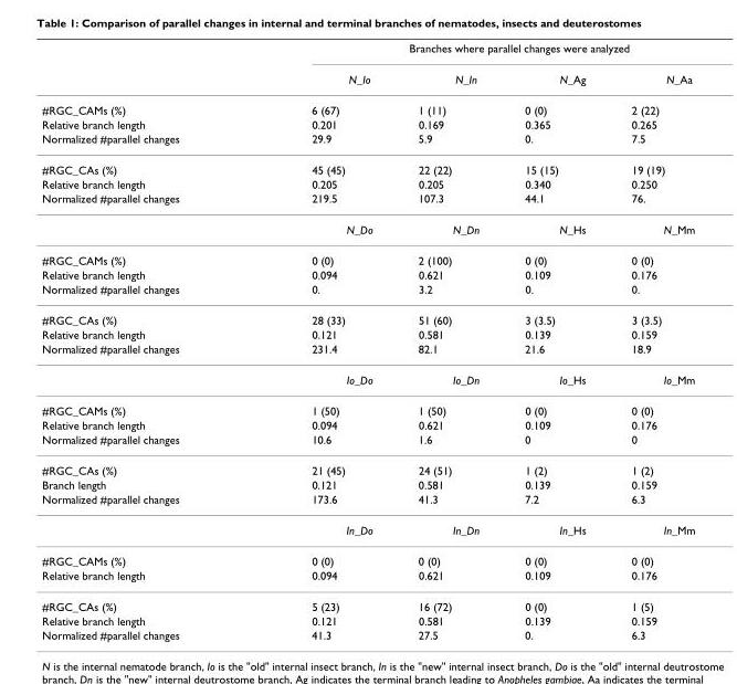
<table><thead><tr><td rowspan="2"></td><td colspan="4">Branches where parallel changes were analyzed</td></tr><tr><td>N_Io</td><td>N_In</td><td>N_Ag</td><td>N_Aa</td></tr></thead><tbody><tr><td>#RGC_CAMs (%)</td><td>6 (67)</td><td>1 (11)</td><td>0 (0)</td><td>2 (22)</td></tr><tr><td>Relative branch length</td><td>0.201</td><td>0.169</td><td>0.365</td><td>0.265</td></tr><tr><td>Normalized #parallel changes</td><td>29.9</td><td>5.9</td><td>0.</td><td>7.5</td></tr><tr><td>#RGC_CAs (%)</td><td>45 (45)</td><td>22 (22)</td><td>15 (15)</td><td>19 (19)</td></tr><tr><td>Relative branch length</td><td>0.205</td><td>0.205</td><td>0.340</td><td>0.250</td></tr><tr><td rowspan="2">Normalized #parallel changes</td><td>219.5</td><td>107.3</td><td>44.1</td><td>76.</td></tr><tr><td>N_Do</td><td>N_Dn</td><td>N_Hs</td><td>N_Mm</td></tr><tr><td>#RGC_CAMs (%)</td><td>0 (0)</td><td>2 (100)</td><td>0 (0)</td><td>0 (0)</td></tr><tr><td>Relative branch length</td><td>0.094</td><td>0.621</td><td>0.109</td><td>0.176</td></tr><tr><td>Normalized #parallel changes</td><td>0.</td><td>3.2</td><td>0.</td><td>0.</td></tr><tr><td>#RGC_CAs (%)</td><td>28 (33)</td><td>51 (60)</td><td>3 (3.5)</td><td>3 (3.5)</td></tr><tr><td>Relative branch length</td><td>0.121</td><td>0.581</td><td>0.139</td><td>0.159</td></tr><tr><td rowspan="2">Normalized #parallel changes</td><td>231.4</td><td>82.1</td><td>21.6</td><td>18.9</td></tr><tr><td>Io_Do</td><td>Io_Dn</td><td>Io_Hs</td><td>Io_Mm</td></tr><tr><td>#RGC_CAMs (%)</td><td>1 (50)</td><td>1 (50)</td><td>0 (0)</td><td>0 (0)</td></tr><tr><td>Relative branch length</td><td>0.094</td><td>0.621</td><td>0.109</td><td>0.176</td></tr><tr><td>Normalized #parallel changes</td><td>10.6</td><td>1.6</td><td>0</td><td>0</td></tr><tr><td>#RGC_CAs (%)</td><td>21 (45)</td><td>24 (51)</td><td>1 (2)</td><td>1 (2)</td></tr><tr><td>Branch length</td><td>0.121</td><td>0.581</td><td>0.139</td><td>0.159</td></tr><tr><td rowspan="2">Normalized #parallel changes</td><td>173.6</td><td>41.3</td><td>7.2</td><td>6.3</td></tr><tr><td>In_Do</td><td>In_Dn</td><td>In_Hs</td><td>In_Mm</td></tr><tr><td>#RGC_CAMs (%)</td><td>0 (0)</td><td>0 (0)</td><td>0 (0)</td><td>0 (0)</td></tr><tr><td>Relative branch length</td><td>0.094</td><td>0.621</td><td>0.109</td><td>0.176</td></tr><tr><td>#RGC_CAs (%)</td><td>5 (23)</td><td>16 (72)</td><td>0 (0)</td><td>1 (5)</td></tr><tr><td>Relative branch length</td><td>0.121</td><td>0.581</td><td>0.139</td><td>0.159</td></tr><tr><td>Normalized #parallel changes</td><td>41.3</td><td>27.5</td><td>0.</td><td>6.3</td></tr></tbody></table>